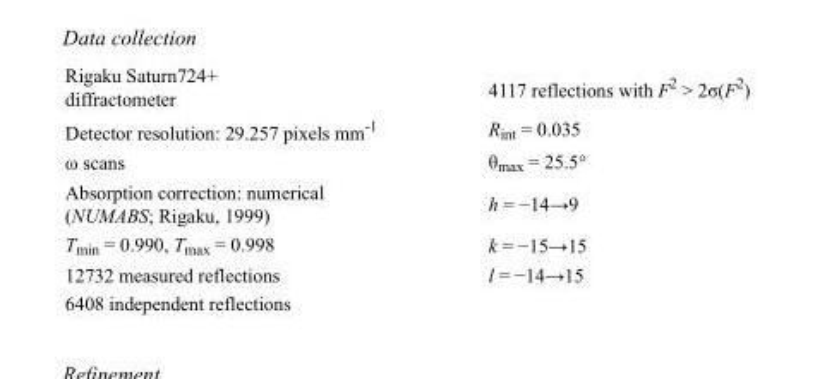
<table><tbody><tr><td>Rigaku Saturn724+ diffractometer</td><td>4117 reflections with F<sup>2</sup> &gt; 2σ(F<sup>2</sup>)</td></tr><tr><td>Detector resolution: 29.257 pixels mm<sup>-1</sup></td><td>R<sub>int</sub> = 0.035</td></tr><tr><td>ω scans</td><td>θ<sub>max</sub> = 25.5°</td></tr><tr><td>Absorption correction: numerical (NUMABS; Rigaku, 1999)</td><td>h = −14→9</td></tr><tr><td>T<sub>min</sub> = 0.990, T<sub>max</sub> = 0.998</td><td>k = −15→15</td></tr><tr><td>12732 measured reflections</td><td>l = −14→15</td></tr><tr><td>6408 independent reflections</td><td></td></tr></tbody></table>